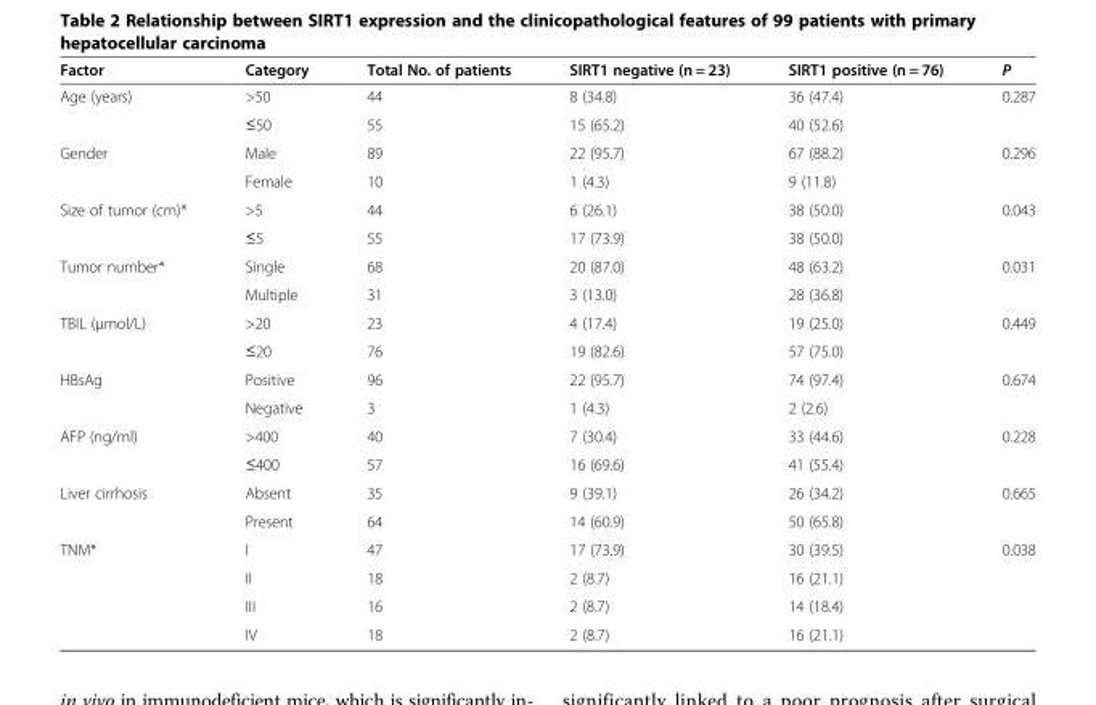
<table><thead><tr><td>Factor</td><td>Category</td><td>Total No. of patients</td><td>SIRT1 negative (n = 23)</td><td>SIRT1 positive (n = 76)</td><td>P</td></tr></thead><tbody><tr><td rowspan="2">Age (years)</td><td>&gt;50</td><td>44</td><td>8 (34.8)</td><td>36 (47.4)</td><td>0.287</td></tr><tr><td>≤50</td><td>55</td><td>15 (65.2)</td><td>40 (52.6)</td><td></td></tr><tr><td rowspan="2">Gender</td><td>Male</td><td>89</td><td>22 (95.7)</td><td>67 (88.2)</td><td>0.296</td></tr><tr><td>Female</td><td>10</td><td>1 (4.3)</td><td>9 (11.8)</td><td></td></tr><tr><td rowspan="2">Size of tumor (cm)*</td><td>&gt;5</td><td>44</td><td>6 (26.1)</td><td>38 (50.0)</td><td>0.043</td></tr><tr><td>≤5</td><td>55</td><td>17 (73.9)</td><td>38 (50.0)</td><td></td></tr><tr><td rowspan="2">Tumor number*</td><td>Single</td><td>68</td><td>20 (87.0)</td><td>48 (63.2)</td><td>0.031</td></tr><tr><td>Multiple</td><td>31</td><td>3 (13.0)</td><td>28 (36.8)</td><td></td></tr><tr><td rowspan="2">TBIL (μmol/L)</td><td>&gt;20</td><td>23</td><td>4 (17.4)</td><td>19 (25.0)</td><td>0.449</td></tr><tr><td>≤20</td><td>76</td><td>19 (82.6)</td><td>57 (75.0)</td><td></td></tr><tr><td rowspan="2">HBsAg</td><td>Positive</td><td>96</td><td>22 (95.7)</td><td>74 (97.4)</td><td>0.674</td></tr><tr><td>Negative</td><td>3</td><td>1 (4.3)</td><td>2 (2.6)</td><td></td></tr><tr><td rowspan="2">AFP (ng/ml)</td><td>&gt;400</td><td>40</td><td>7 (30.4)</td><td>33 (44.6)</td><td>0.228</td></tr><tr><td>≤400</td><td>57</td><td>16 (69.6)</td><td>41 (55.4)</td><td></td></tr><tr><td rowspan="2">Liver cirrhosis</td><td>Absent</td><td>35</td><td>9 (39.1)</td><td>26 (34.2)</td><td>0.665</td></tr><tr><td>Present</td><td>64</td><td>14 (60.9)</td><td>50 (65.8)</td><td></td></tr><tr><td rowspan="4">TNM*</td><td>I</td><td>47</td><td>17 (73.9)</td><td>30 (39.5)</td><td>0.038</td></tr><tr><td>II</td><td>18</td><td>2 (8.7)</td><td>16 (21.1)</td><td></td></tr><tr><td>III</td><td>16</td><td>2 (8.7)</td><td>14 (18.4)</td><td></td></tr><tr><td>IV</td><td>18</td><td>2 (8.7)</td><td>16 (21.1)</td><td></td></tr></tbody></table>